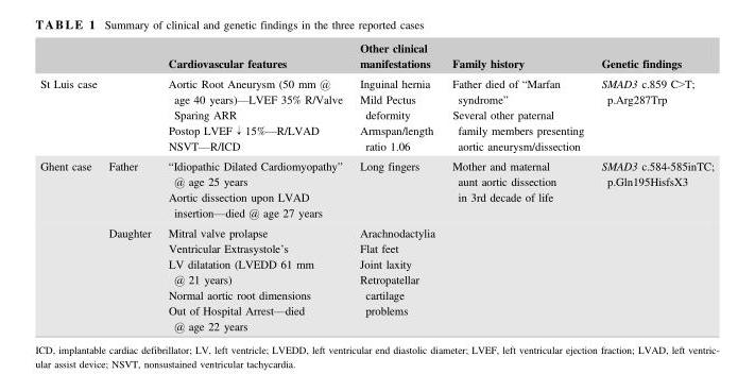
<table><thead><tr><td></td><td></td><td>Cardiovascular features</td><td>Other clinical manifestations</td><td>Family history</td><td>Genetic findings</td></tr></thead><tbody><tr><td colspan="2">St Luis case</td><td>Aortic Root Aneurysm (50 mm @ age 40 years)—LVEF 35% R/Valve Sparing ARR Postop LVEF ↓ 15%—R/LVAD NSVT—R/ICD</td><td>Inguinal hernia Mild Pectus deformity Armspan/length ratio 1.06</td><td>Father died of “Marfan syndrome” Several other paternal family members presenting aortic aneurysm/dissection</td><td>SMAD3 c.859 C&gt;T; p.Arg287Trp</td></tr><tr><td rowspan="2">Ghent case</td><td>Father</td><td>“Idiopathic Dilated Cardiomyopathy” @ age 25 years Aortic dissection upon LVAD insertion—died @ age 27 years</td><td>Long fingers</td><td>Mother and maternal aunt aortic dissection in 3rd decade of life</td><td>SMAD3 c.584-585inTC; p.Gln195HisfsX3</td></tr><tr><td>Daughter</td><td>Mitral valve prolapse Ventricular Extrasystole’s LV dilatation (LVEDD 61 mm @ 21 years) Normal aortic root dimensions Out of Hospital Arrest—died @ age 22 years</td><td>Arachnodactylia Flat feet Joint laxity Retropatellar cartilage problems</td><td></td><td></td></tr></tbody></table>